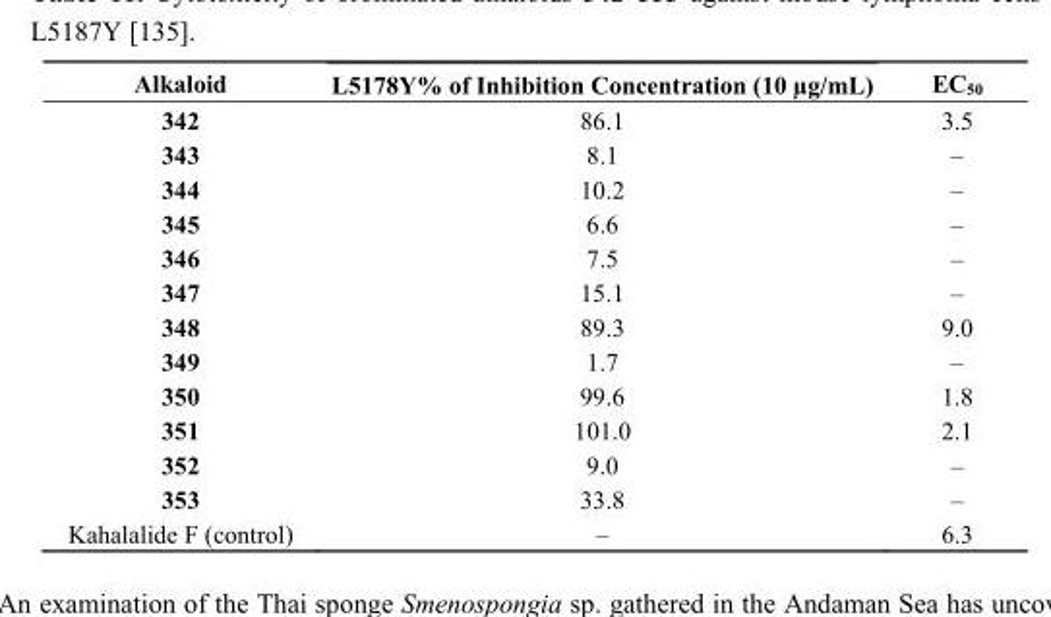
<table><thead><tr><td>Alkaloid</td><td>L5178Y% of Inhibition Concentration (10 µg/mL)</td><td>EC<sub>50</sub></td></tr></thead><tbody><tr><td>342</td><td>86.1</td><td>3.5</td></tr><tr><td>343</td><td>8.1</td><td>–</td></tr><tr><td>344</td><td>10.2</td><td>–</td></tr><tr><td>345</td><td>6.6</td><td>–</td></tr><tr><td>346</td><td>7.5</td><td>–</td></tr><tr><td>347</td><td>15.1</td><td>–</td></tr><tr><td>348</td><td>89.3</td><td>9.0</td></tr><tr><td>349</td><td>1.7</td><td>–</td></tr><tr><td>350</td><td>99.6</td><td>1.8</td></tr><tr><td>351</td><td>101.0</td><td>2.1</td></tr><tr><td>352</td><td>9.0</td><td>–</td></tr><tr><td>353</td><td>33.8</td><td>–</td></tr><tr><td>Kahalalide F (control)</td><td>–</td><td>6.3</td></tr></tbody></table>